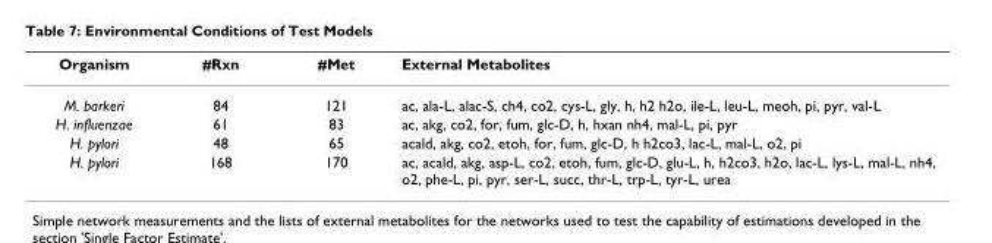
<table><thead><tr><td>Organism</td><td>#Rxn</td><td>#Met</td><td>External Metabolites</td></tr></thead><tbody><tr><td>M. barkeri</td><td>84</td><td>121</td><td>ac, ala-L, alac-S, ch4, co2, cys-L, gly, h, h2 h2o, ile-L, leu-L, meoh, pi, pyr, val-L</td></tr><tr><td>H. influenzae</td><td>61</td><td>83</td><td>ac, akg, co2, for, fum, glc-D, h, hxan nh4, mal-L, pi, pyr</td></tr><tr><td>H. pylori</td><td>48</td><td>65</td><td>acald, akg, co2, etoh, for, fum, glc-D, h h2co3, lac-L, mal-L, o2, pi</td></tr><tr><td>H. pylori</td><td>168</td><td>170</td><td>ac, acald, akg, asp-L, co2, etoh, fum, glc-D, glu-L, h, h2co3, h2o, lac-L, lys-L, mal-L, nh4, o2, phe-L, pi, pyr, ser-L, succ, thr-L, trp-L, tyr-L, urea</td></tr></tbody></table>